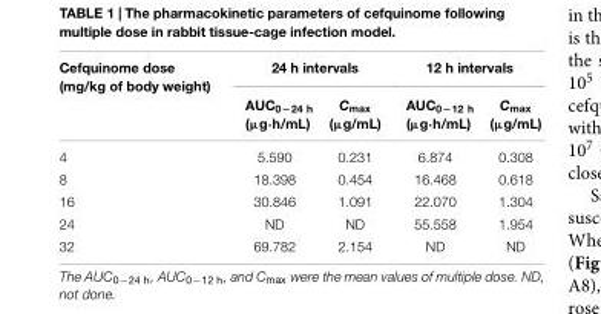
<table><thead><tr><td rowspan="2">Cefquinome dose (mg/kg of body weight)</td><td colspan="2">24 h intervals</td><td colspan="2">12 h intervals</td></tr><tr><td>AUC0−24 h (µg·h/mL)</td><td>C<sub>max</sub> (µg/mL)</td><td>AUC0−12 h (µg·h/mL)</td><td>C<sub>max</sub> (µg/mL)</td></tr></thead><tbody><tr><td>4</td><td>5.590</td><td>0.231</td><td>6.874</td><td>0.308</td></tr><tr><td>8</td><td>18.398</td><td>0.454</td><td>16.468</td><td>0.618</td></tr><tr><td>16</td><td>30.846</td><td>1.091</td><td>22.070</td><td>1.304</td></tr><tr><td>24</td><td>ND</td><td>ND</td><td>55.558</td><td>1.954</td></tr><tr><td>32</td><td>69.782</td><td>2.154</td><td>ND</td><td>ND</td></tr></tbody></table>